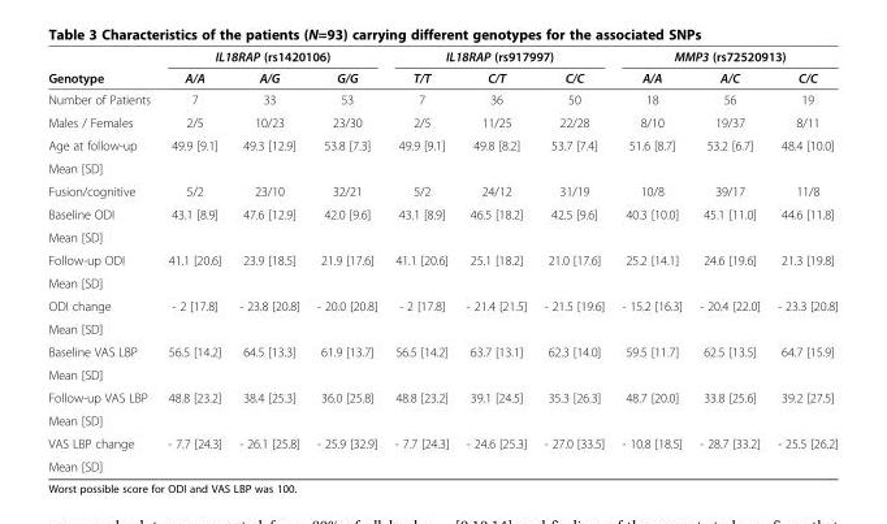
<table><thead><tr><td rowspan="2">Genotype</td><td colspan="3">IL18RAP (rs1420106)</td><td colspan="3">IL18RAP (rs917997)</td><td colspan="3">MMP3 (rs72520913)</td></tr><tr><td>A/A</td><td>A/G</td><td>G/G</td><td>T/T</td><td>C/T</td><td>C/C</td><td>A/A</td><td>A/C</td><td>C/C</td></tr></thead><tbody><tr><td>Number of Patients</td><td>7</td><td>33</td><td>53</td><td>7</td><td>36</td><td>50</td><td>18</td><td>56</td><td>19</td></tr><tr><td>Males / Females</td><td>2/5</td><td>10/23</td><td>23/30</td><td>2/5</td><td>11/25</td><td>22/28</td><td>8/10</td><td>19/37</td><td>8/11</td></tr><tr><td>Age at follow-up</td><td rowspan="2">49.9 [9.1]</td><td rowspan="2">49.3 [12.9]</td><td rowspan="2">53.8 [7.3]</td><td rowspan="2">49.9 [9.1]</td><td rowspan="2">49.8 [8.2]</td><td rowspan="2">53.7 [7.4]</td><td rowspan="2">51.6 [8.7]</td><td rowspan="2">53.2 [6.7]</td><td rowspan="2">48.4 [10.0]</td></tr><tr><td>Mean [SD]</td></tr><tr><td>Fusion/cognitive</td><td>5/2</td><td>23/10</td><td>32/21</td><td>5/2</td><td>24/12</td><td>31/19</td><td>10/8</td><td>39/17</td><td>11/8</td></tr><tr><td>Baseline ODI</td><td rowspan="2">43.1 [8.9]</td><td rowspan="2">47.6 [12.9]</td><td rowspan="2">42.0 [9.6]</td><td rowspan="2">43.1 [8.9]</td><td rowspan="2">46.5 [18.2]</td><td rowspan="2">42.5 [9.6]</td><td rowspan="2">40.3 [10.0]</td><td rowspan="2">45.1 [11.0]</td><td rowspan="2">44.6 [11.8]</td></tr><tr><td>Mean [SD]</td></tr><tr><td>Follow-up ODI</td><td rowspan="2">41.1 [20.6]</td><td rowspan="2">23.9 [18.5]</td><td rowspan="2">21.9 [17.6]</td><td rowspan="2">41.1 [20.6]</td><td rowspan="2">25.1 [18.2]</td><td rowspan="2">21.0 [17.6]</td><td rowspan="2">25.2 [14.1]</td><td rowspan="2">24.6 [19.6]</td><td rowspan="2">21.3 [19.8]</td></tr><tr><td>Mean [SD]</td></tr><tr><td>ODI change</td><td rowspan="2">- 2 [17.8]</td><td rowspan="2">- 23.8 [20.8]</td><td rowspan="2">- 20.0 [20.8]</td><td rowspan="2">- 2 [17.8]</td><td rowspan="2">- 21.4 [21.5]</td><td rowspan="2">- 21.5 [19.6]</td><td rowspan="2">- 15.2 [16.3]</td><td rowspan="2">- 20.4 [22.0]</td><td rowspan="2">- 23.3 [20.8]</td></tr><tr><td>Mean [SD]</td></tr><tr><td>Baseline VAS LBP</td><td rowspan="2">56.5 [14.2]</td><td rowspan="2">64.5 [13.3]</td><td rowspan="2">61.9 [13.7]</td><td rowspan="2">56.5 [14.2]</td><td rowspan="2">63.7 [13.1]</td><td rowspan="2">62.3 [14.0]</td><td rowspan="2">59.5 [11.7]</td><td rowspan="2">62.5 [13.5]</td><td rowspan="2">64.7 [15.9]</td></tr><tr><td>Mean [SD]</td></tr><tr><td>Follow-up VAS LBP</td><td rowspan="2">48.8 [23.2]</td><td rowspan="2">38.4 [25.3]</td><td rowspan="2">36.0 [25.8]</td><td rowspan="2">48.8 [23.2]</td><td rowspan="2">39.1 [24.5]</td><td rowspan="2">35.3 [26.3]</td><td rowspan="2">48.7 [20.0]</td><td rowspan="2">33.8 [25.6]</td><td rowspan="2">39.2 [27.5]</td></tr><tr><td>Mean [SD]</td></tr><tr><td>VAS LBP change</td><td rowspan="2">- 7.7 [24.3]</td><td rowspan="2">- 26.1 [25.8]</td><td rowspan="2">- 25.9 [32.9]</td><td rowspan="2">- 7.7 [24.3]</td><td rowspan="2">- 24.6 [25.3]</td><td rowspan="2">- 27.0 [33.5]</td><td rowspan="2">- 10.8 [18.5]</td><td rowspan="2">- 28.7 [33.2]</td><td rowspan="2">- 25.5 [26.2]</td></tr><tr><td>Mean [SD]</td></tr></tbody></table>